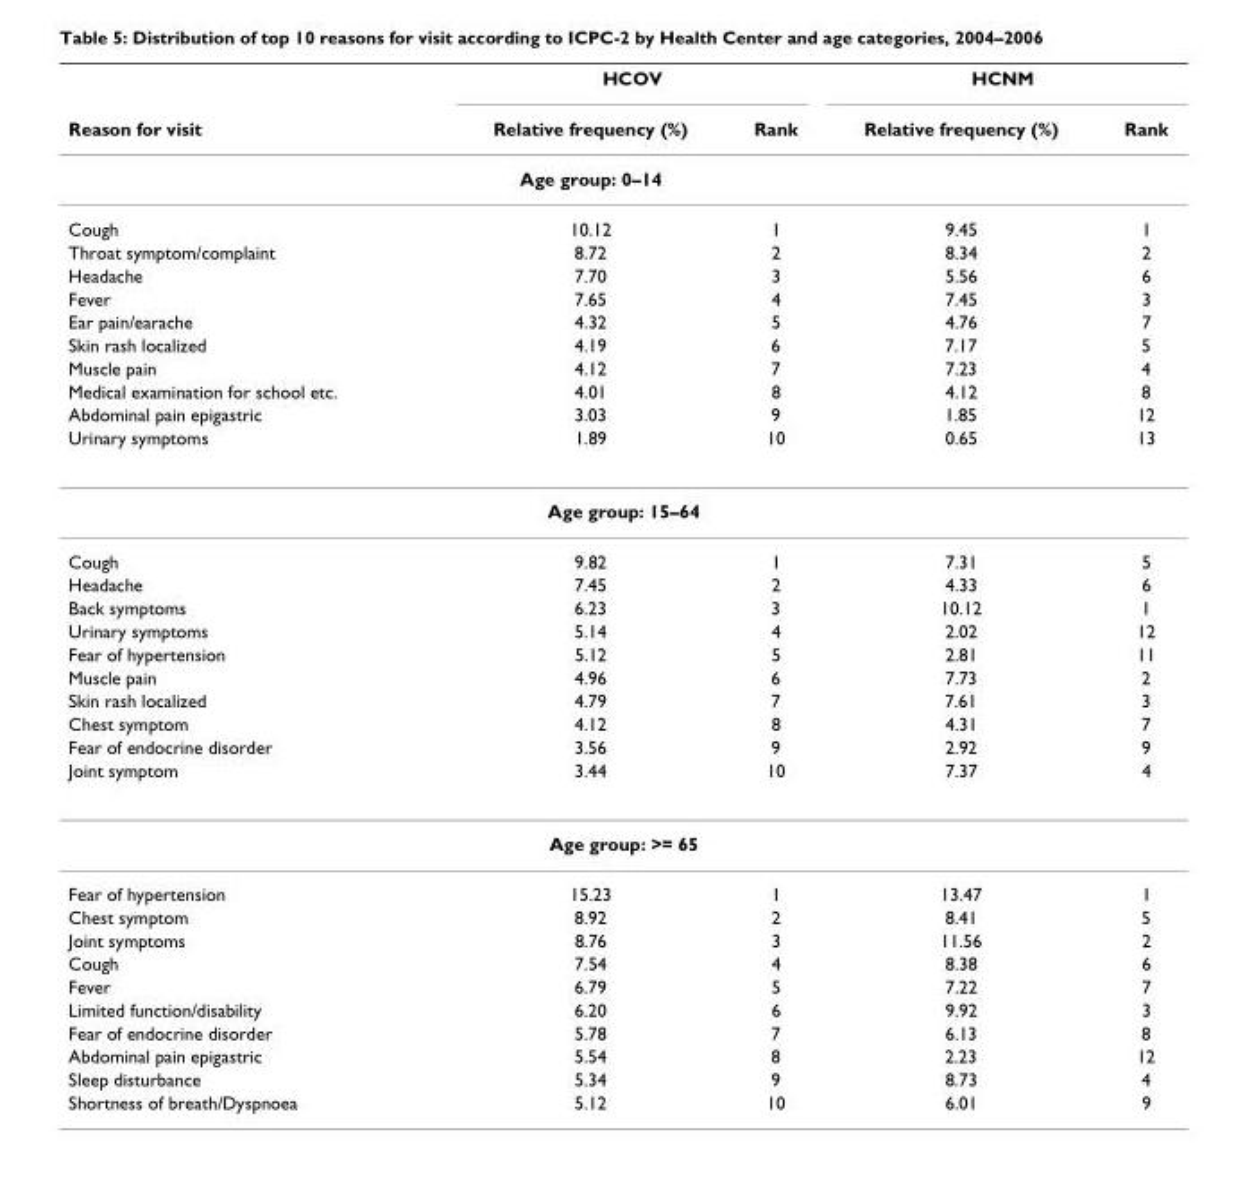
<table><thead><tr><td rowspan="2">Reason for visit</td><td colspan="2">HCOV</td><td colspan="2">HCNM</td></tr><tr><td>Relative frequency (%)</td><td>Rank</td><td>Relative frequency (%)</td><td>Rank</td></tr></thead><tbody><tr><td></td><td>Age group: 0–14</td><td></td><td></td><td></td></tr><tr><td>Cough</td><td>10.12</td><td>1</td><td>9.45</td><td>1</td></tr><tr><td>Throat symptom/complaint</td><td>8.72</td><td>2</td><td>8.34</td><td>2</td></tr><tr><td>Headache</td><td>7.70</td><td>3</td><td>5.56</td><td>6</td></tr><tr><td>Fever</td><td>7.65</td><td>4</td><td>7.45</td><td>3</td></tr><tr><td>Ear pain/earache</td><td>4.32</td><td>5</td><td>4.76</td><td>7</td></tr><tr><td>Skin rash localized</td><td>4.19</td><td>6</td><td>7.17</td><td>5</td></tr><tr><td>Muscle pain</td><td>4.12</td><td>7</td><td>7.23</td><td>4</td></tr><tr><td>Medical examination for school etc.</td><td>4.01</td><td>8</td><td>4.12</td><td>8</td></tr><tr><td>Abdominal pain epigastric</td><td>3.03</td><td>9</td><td>1.85</td><td>12</td></tr><tr><td>Urinary symptoms</td><td>1.89</td><td>10</td><td>0.65</td><td>13</td></tr><tr><td colspan="5">Age group: 15–64</td></tr><tr><td>Cough</td><td>9.82</td><td>1</td><td>7.31</td><td>5</td></tr><tr><td>Headache</td><td>7.45</td><td>2</td><td>4.33</td><td>6</td></tr><tr><td>Back symptoms</td><td>6.23</td><td>3</td><td>10.12</td><td>1</td></tr><tr><td>Urinary symptoms</td><td>5.14</td><td>4</td><td>2.02</td><td>12</td></tr><tr><td>Fear of hypertension</td><td>5.12</td><td>5</td><td>2.81</td><td>11</td></tr><tr><td>Muscle pain</td><td>4.96</td><td>6</td><td>7.73</td><td>2</td></tr><tr><td>Skin rash localized</td><td>4.79</td><td>7</td><td>7.61</td><td>3</td></tr><tr><td>Chest symptom</td><td>4.12</td><td>8</td><td>4.31</td><td>7</td></tr><tr><td>Fear of endocrine disorder</td><td>3.56</td><td>9</td><td>2.92</td><td>9</td></tr><tr><td>Joint symptom</td><td>3.44</td><td>10</td><td>7.37</td><td>4</td></tr><tr><td colspan="5">Age group: &gt;= 65</td></tr><tr><td>Fear of hypertension</td><td>15.23</td><td>1</td><td>13.47</td><td>1</td></tr><tr><td>Chest symptom</td><td>8.92</td><td>2</td><td>8.41</td><td>5</td></tr><tr><td>Joint symptoms</td><td>8.76</td><td>3</td><td>11.56</td><td>2</td></tr><tr><td>Cough</td><td>7.54</td><td>4</td><td>8.38</td><td>6</td></tr><tr><td>Fever</td><td>6.79</td><td>5</td><td>7.22</td><td>7</td></tr><tr><td>Limited function/disability</td><td>6.20</td><td>6</td><td>9.92</td><td>3</td></tr><tr><td>Fear of endocrine disorder</td><td>5.78</td><td>7</td><td>6.13</td><td>8</td></tr><tr><td>Abdominal pain epigastric</td><td>5.54</td><td>8</td><td>2.23</td><td>12</td></tr><tr><td>Sleep disturbance</td><td>5.34</td><td>9</td><td>8.73</td><td>4</td></tr><tr><td>Shortness of breath/Dyspnoea</td><td>5.12</td><td>10</td><td>6.01</td><td>9</td></tr></tbody></table>